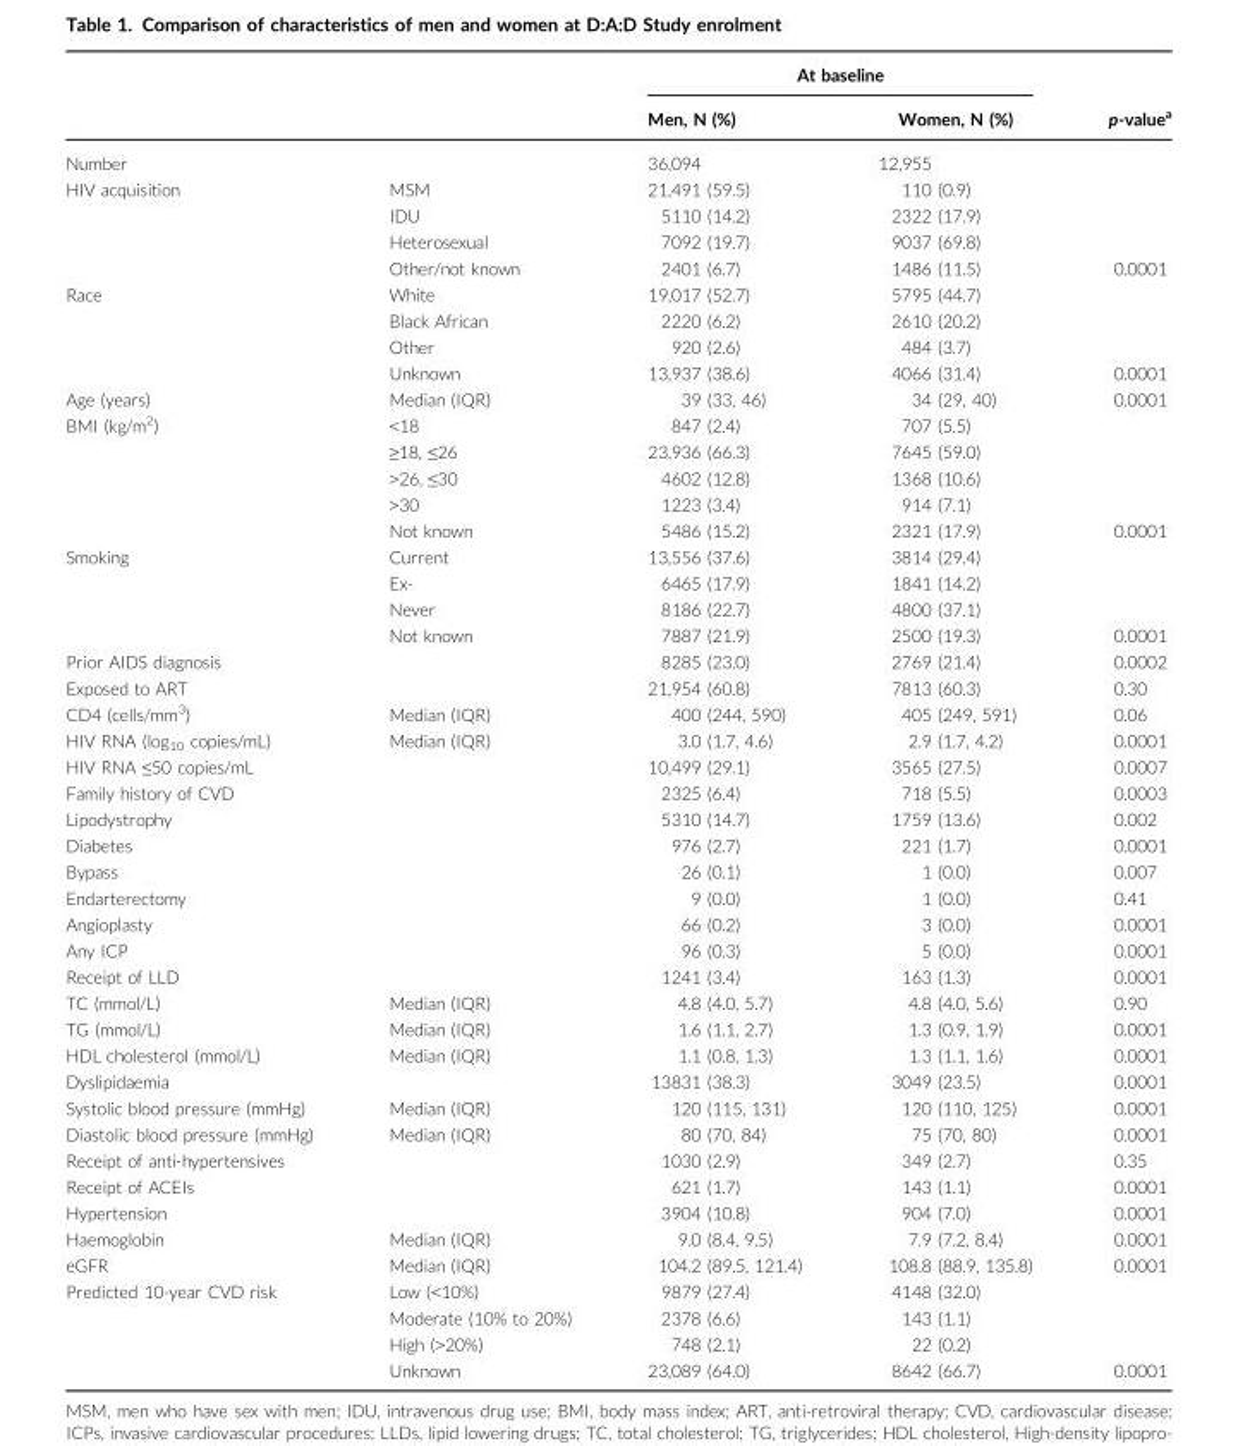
<table><thead><tr><td rowspan="2"></td><td rowspan="2"></td><td colspan="2">At baseline</td><td rowspan="2">p-value<sup>a</sup></td></tr><tr><td>Men, N (%)</td><td>Women, N (%)</td></tr></thead><tbody><tr><td colspan="2">Number</td><td>36,094</td><td>12,955</td><td></td></tr><tr><td rowspan="4">HIV acquisition</td><td>MSM</td><td>21,491 (59.5)</td><td>110 (0.9)</td><td></td></tr><tr><td>IDU</td><td>5110 (14.2)</td><td>2322 (17.9)</td><td></td></tr><tr><td>Heterosexual</td><td>7092 (19.7)</td><td>9037 (69.8)</td><td></td></tr><tr><td>Other/not known</td><td>2401 (6.7)</td><td>1486 (11.5)</td><td>0.0001</td></tr><tr><td rowspan="4">Race</td><td>White</td><td>19,017 (52.7)</td><td>5795 (44.7)</td><td></td></tr><tr><td>Black African</td><td>2220 (6.2)</td><td>2610 (20.2)</td><td></td></tr><tr><td>Other</td><td>920 (2.6)</td><td>484 (3.7)</td><td></td></tr><tr><td>Unknown</td><td>13,937 (38.6)</td><td>4066 (31.4)</td><td>0.0001</td></tr><tr><td>Age (years)</td><td>Median (IQR)</td><td>39 (33, 46)</td><td>34 (29, 40)</td><td>0.0001</td></tr><tr><td rowspan="5">BMI (kg/m<sup>2</sup>)</td><td>&lt;18</td><td>847 (2.4)</td><td>707 (5.5)</td><td></td></tr><tr><td>≥18, ≤26</td><td>23,936 (66.3)</td><td>7645 (59.0)</td><td></td></tr><tr><td>&gt;26, ≤30</td><td>4602 (12.8)</td><td>1368 (10.6)</td><td></td></tr><tr><td>&gt;30</td><td>1223 (3.4)</td><td>914 (7.1)</td><td></td></tr><tr><td>Not known</td><td>5486 (15.2)</td><td>2321 (17.9)</td><td>0.0001</td></tr><tr><td rowspan="4">Smoking</td><td>Current</td><td>13,556 (37.6)</td><td>3814 (29.4)</td><td></td></tr><tr><td>Ex-</td><td>6465 (17.9)</td><td>1841 (14.2)</td><td></td></tr><tr><td>Never</td><td>8186 (22.7)</td><td>4800 (37.1)</td><td></td></tr><tr><td>Not known</td><td>7887 (21.9)</td><td>2500 (19.3)</td><td>0.0001</td></tr><tr><td colspan="2">Prior AIDS diagnosis</td><td>8285 (23.0)</td><td>2769 (21.4)</td><td>0.0002</td></tr><tr><td colspan="2">Exposed to ART</td><td>21,954 (60.8)</td><td>7813 (60.3)</td><td>0.30</td></tr><tr><td>CD4 (cells/mm<sup>3</sup>)</td><td>Median (IQR)</td><td>400 (244, 590)</td><td>405 (249, 591)</td><td>0.06</td></tr><tr><td>HIV RNA (log<sub>10</sub> copies/mL)</td><td>Median (IQR)</td><td>3.0 (1.7, 4.6)</td><td>2.9 (1.7, 4.2)</td><td>0.0001</td></tr><tr><td colspan="2">HIV RNA ≤50 copies/mL</td><td>10,499 (29.1)</td><td>3565 (27.5)</td><td>0.0007</td></tr><tr><td colspan="2">Family history of CVD</td><td>2325 (6.4)</td><td>718 (5.5)</td><td>0.0003</td></tr><tr><td colspan="2">Lipodystrophy</td><td>5310 (14.7)</td><td>1759 (13.6)</td><td>0.002</td></tr><tr><td colspan="2">Diabetes</td><td>976 (2.7)</td><td>221 (1.7)</td><td>0.0001</td></tr><tr><td colspan="2">Bypass</td><td>26 (0.1)</td><td>1 (0.0)</td><td>0.007</td></tr><tr><td colspan="2">Endarterectomy</td><td>9 (0.0)</td><td>1 (0.0)</td><td>0.41</td></tr><tr><td colspan="2">Angioplasty</td><td>66 (0.2)</td><td>3 (0.0)</td><td>0.0001</td></tr><tr><td colspan="2">Any ICP</td><td>96 (0.3)</td><td>5 (0.0)</td><td>0.0001</td></tr><tr><td colspan="2">Receipt of LLD</td><td>1241 (3.4)</td><td>163 (1.3)</td><td>0.0001</td></tr><tr><td>TC (mmol/L)</td><td>Median (IQR)</td><td>4.8 (4.0, 5.7)</td><td>4.8 (4.0, 5.6)</td><td>0.90</td></tr><tr><td>TG (mmol/L)</td><td>Median (IQR)</td><td>1.6 (1.1, 2.7)</td><td>1.3 (0.9, 1.9)</td><td>0.0001</td></tr><tr><td>HDL cholesterol (mmol/L)</td><td>Median (IQR)</td><td>1.1 (0.8, 1.3)</td><td>1.3 (1.1, 1.6)</td><td>0.0001</td></tr><tr><td colspan="2">Dyslipidaemia</td><td>13831 (38.3)</td><td>3049 (23.5)</td><td>0.0001</td></tr><tr><td>Systolic blood pressure (mmHg)</td><td>Median (IQR)</td><td>120 (115, 131)</td><td>120 (110, 125)</td><td>0.0001</td></tr><tr><td>Diastolic blood pressure (mmHg)</td><td>Median (IQR)</td><td>80 (70, 84)</td><td>75 (70, 80)</td><td>0.0001</td></tr><tr><td colspan="2">Receipt of anti-hypertensives</td><td>1030 (2.9)</td><td>349 (2.7)</td><td>0.35</td></tr><tr><td colspan="2">Receipt of ACEIs</td><td>621 (1.7)</td><td>143 (1.1)</td><td>0.0001</td></tr><tr><td colspan="2">Hypertension</td><td>3904 (10.8)</td><td>904 (7.0)</td><td>0.0001</td></tr><tr><td>Haemoglobin</td><td>Median (IQR)</td><td>9.0 (8.4, 9.5)</td><td>7.9 (7.2, 8.4)</td><td>0.0001</td></tr><tr><td>eGFR</td><td>Median (IQR)</td><td>104.2 (89.5, 121.4)</td><td>108.8 (88.9, 135.8)</td><td>0.0001</td></tr><tr><td rowspan="4">Predicted 10-year CVD risk</td><td>Low (&lt;10%)</td><td>9879 (27.4)</td><td>4148 (32.0)</td><td></td></tr><tr><td>Moderate (10% to 20%)</td><td>2378 (6.6)</td><td>143 (1.1)</td><td></td></tr><tr><td>High (&gt;20%)</td><td>748 (2.1)</td><td>22 (0.2)</td><td></td></tr><tr><td>Unknown</td><td>23,089 (64.0)</td><td>8642 (66.7)</td><td>0.0001</td></tr></tbody></table>